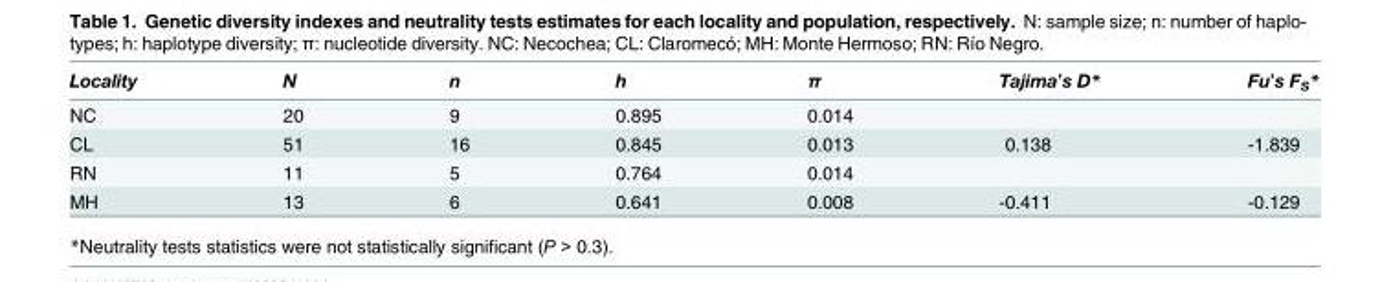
<table><thead><tr><td>Locality</td><td>N</td><td>n</td><td>h</td><td>π</td><td>Tajima’s D*</td><td>Fu’s F<sub>S</sub>*</td></tr></thead><tbody><tr><td>NC</td><td>20</td><td>9</td><td>0.895</td><td>0.014</td><td></td><td></td></tr><tr><td>CL</td><td>51</td><td>16</td><td>0.845</td><td>0.013</td><td>0.138</td><td>-1.839</td></tr><tr><td>RN</td><td>11</td><td>5</td><td>0.764</td><td>0.014</td><td></td><td></td></tr><tr><td>MH</td><td>13</td><td>6</td><td>0.641</td><td>0.008</td><td>-0.411</td><td>-0.129</td></tr></tbody></table>